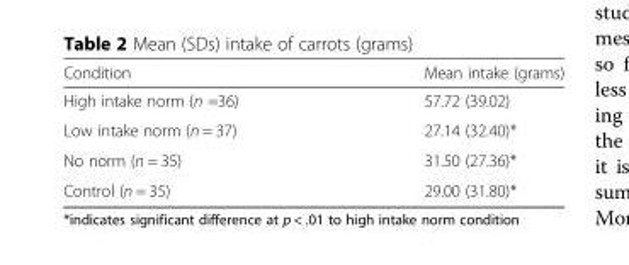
<table><thead><tr><td>Condition</td><td>Mean intake (grams)</td></tr></thead><tbody><tr><td>High intake norm (n =36)</td><td>57.72 (39.02)</td></tr><tr><td>Low intake norm (n = 37)</td><td>27.14 (32.40)*</td></tr><tr><td>No norm (n = 35)</td><td>31.50 (27.36)*</td></tr><tr><td>Control (n = 35)</td><td>29.00 (31.80)*</td></tr></tbody></table>